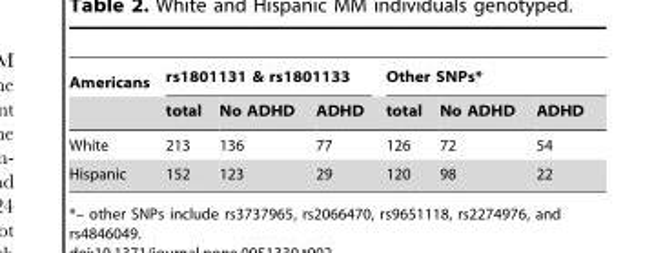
<table><thead><tr><td rowspan="2">Americans</td><td colspan="3">rs1801131 &amp; rs1801133</td><td colspan="3">Other SNPs*</td></tr><tr><td>total</td><td>No ADHD</td><td>ADHD</td><td>total</td><td>No ADHD</td><td>ADHD</td></tr></thead><tbody><tr><td>White</td><td>213</td><td>136</td><td>77</td><td>126</td><td>72</td><td>54</td></tr><tr><td>Hispanic</td><td>152</td><td>123</td><td>29</td><td>120</td><td>98</td><td>22</td></tr></tbody></table>